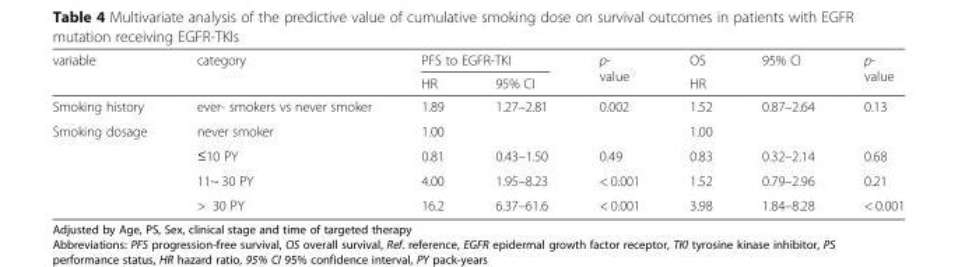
<table><thead><tr><td rowspan="2">variable</td><td rowspan="2">category</td><td colspan="2">PFS to EGFR-TKI</td><td rowspan="2">p- value</td><td rowspan="2">OS HR</td><td rowspan="2">95% CI</td><td rowspan="2">p- value</td></tr><tr><td>HR</td><td>95% CI</td></tr></thead><tbody><tr><td>Smoking history</td><td>ever- smokers vs never smoker</td><td>1.89</td><td>1.27–2.81</td><td>0.002</td><td>1.52</td><td>0.87–2.64</td><td>0.13</td></tr><tr><td rowspan="4">Smoking dosage</td><td>never smoker</td><td>1.00</td><td></td><td></td><td>1.00</td><td></td><td></td></tr><tr><td>≤10 PY</td><td>0.81</td><td>0.43–1.50</td><td>0.49</td><td>0.83</td><td>0.32–2.14</td><td>0.68</td></tr><tr><td>11~ 30 PY</td><td>4.00</td><td>1.95–8.23</td><td>&lt; 0.001</td><td>1.52</td><td>0.79–2.96</td><td>0.21</td></tr><tr><td>&gt; 30 PY</td><td>16.2</td><td>6.37–61.6</td><td>&lt; 0.001</td><td>3.98</td><td>1.84–8.28</td><td>&lt; 0.001</td></tr></tbody></table>